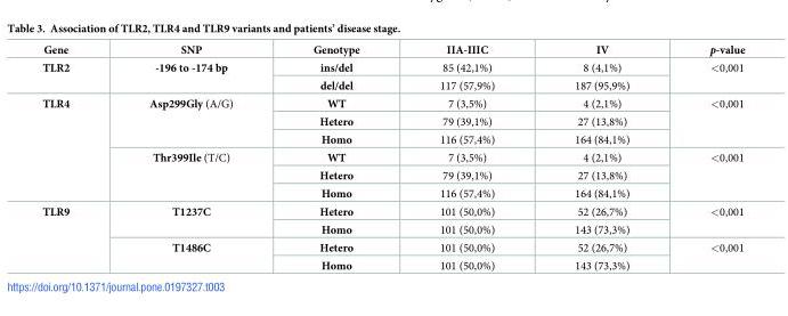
<table><thead><tr><td>Gene</td><td>SNP</td><td>Genotype</td><td>IIA-IIIC</td><td>IV</td><td>p-value</td></tr></thead><tbody><tr><td rowspan="2">TLR2</td><td rowspan="2">-196 to -174 bp</td><td>ins/del</td><td>85 (42,1%)</td><td>8 (4,1%)</td><td rowspan="2">&lt;0,001</td></tr><tr><td>del/del</td><td>117 (57,9%)</td><td>187 (95,9%)</td></tr><tr><td rowspan="6">TLR4</td><td rowspan="3">Asp299Gly (A/G)</td><td>WT</td><td>7 (3,5%)</td><td>4 (2,1%)</td><td rowspan="3">&lt;0,001</td></tr><tr><td>Hetero</td><td>79 (39,1%)</td><td>27 (13,8%)</td></tr><tr><td>Homo</td><td>116 (57,4%)</td><td>164 (84,1%)</td></tr><tr><td rowspan="3">Thr399Ile (T/C)</td><td>WT</td><td>7 (3,5%)</td><td>4 (2,1%)</td><td rowspan="3">&lt;0,001</td></tr><tr><td>Hetero</td><td>79 (39,1%)</td><td>27 (13,8%)</td></tr><tr><td>Homo</td><td>116 (57,4%)</td><td>164 (84,1%)</td></tr><tr><td rowspan="4">TLR9</td><td rowspan="2">T1237C</td><td>Hetero</td><td>101 (50,0%)</td><td>52 (26,7%)</td><td rowspan="2">&lt;0,001</td></tr><tr><td>Homo</td><td>101 (50,0%)</td><td>143 (73,3%)</td></tr><tr><td rowspan="2">T1486C</td><td>Hetero</td><td>101 (50,0%)</td><td>52 (26,7%)</td><td rowspan="2">&lt;0,001</td></tr><tr><td>Homo</td><td>101 (50,0%)</td><td>143 (73,3%)</td></tr></tbody></table>